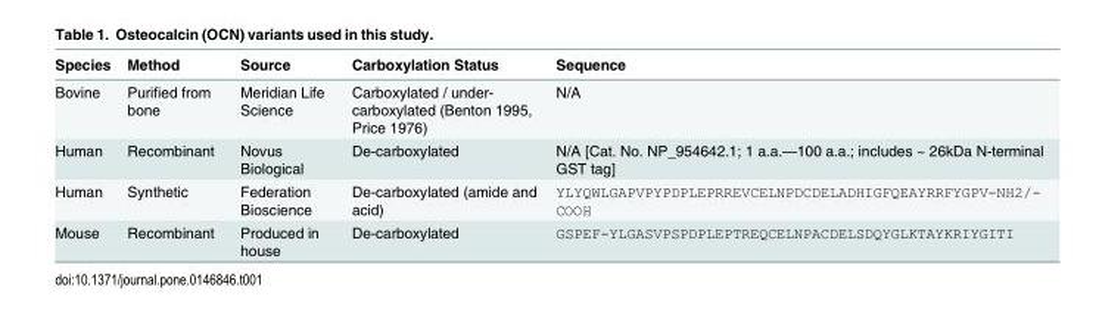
<table><thead><tr><td>Species</td><td>Method</td><td>Source</td><td>Carboxylation Status</td><td>Sequence</td></tr></thead><tbody><tr><td>Bovine</td><td>Purified from bone</td><td>Meridian Life Science</td><td>Carboxylated / under- carboxylated (Benton 1995, Price 1976)</td><td>N/A</td></tr><tr><td>Human</td><td>Recombinant</td><td>Novus Biological</td><td>De-carboxylated</td><td>N/A [Cat. No. NP_954642.1; 1 a.a.—100 a.a.; includes ~ 26kDa N-terminal GST tag]</td></tr><tr><td>Human</td><td>Synthetic</td><td>Federation Bioscience</td><td>De-carboxylated (amide and acid)</td><td>YLYQWLGAPVPYPDPLEPRREVCELNPDCDELADHIGFQEAYRRFYGPV-NH2/- COOH</td></tr><tr><td>Mouse</td><td>Recombinant</td><td>Produced in house</td><td>De-carboxylated</td><td>GSPEF-YLGASVPSPDPLEPTREQCELNPACDELSDQYGLKTAYKRIYGITI</td></tr></tbody></table>